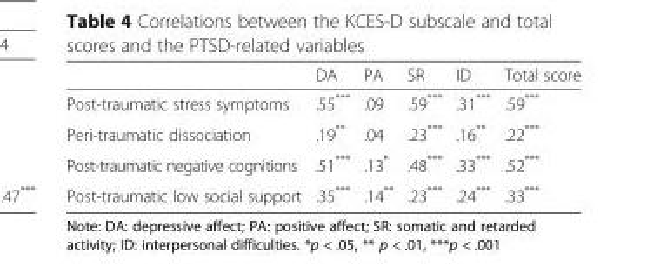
<table><thead><tr><td></td><td>DA</td><td>PA</td><td>SR</td><td>ID</td><td>Total score</td></tr></thead><tbody><tr><td>Post-traumatic stress symptoms</td><td>.55***</td><td>.09</td><td>.59***</td><td>.31***</td><td>.59***</td></tr><tr><td>Peri-traumatic dissociation</td><td>.19**</td><td>.04</td><td>.23***</td><td>.16**</td><td>.22***</td></tr><tr><td>Post-traumatic negative cognitions</td><td>.51***</td><td>.13*</td><td>.48***</td><td>.33***</td><td>.52***</td></tr><tr><td>Post-traumatic low social support</td><td>.35***</td><td>.14**</td><td>.23***</td><td>.24***</td><td>.33***</td></tr></tbody></table>